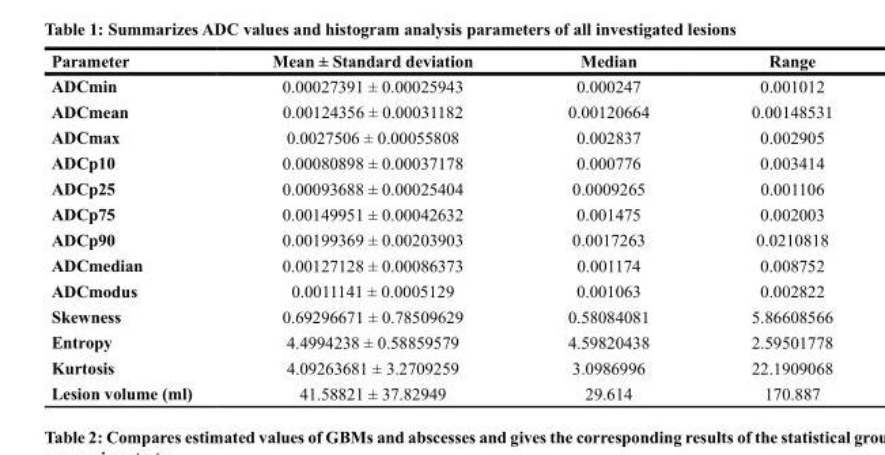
<table><thead><tr><td>Parameter</td><td>Mean ± Standard deviation</td><td>Median</td><td>Range</td></tr></thead><tbody><tr><td>ADCmin</td><td>0.00027391 ± 0.00025943</td><td>0.000247</td><td>0.001012</td></tr><tr><td>ADCmean</td><td>0.00124356 ± 0.00031182</td><td>0.00120664</td><td>0.00148531</td></tr><tr><td>ADCmax</td><td>0.0027506 ± 0.00055808</td><td>0.002837</td><td>0.002905</td></tr><tr><td>ADCp10</td><td>0.00080898 ± 0.00037178</td><td>0.000776</td><td>0.003414</td></tr><tr><td>ADCp25</td><td>0.00093688 ± 0.00025404</td><td>0.0009265</td><td>0.001106</td></tr><tr><td>ADCp75</td><td>0.00149951 ± 0.00042632</td><td>0.001475</td><td>0.002003</td></tr><tr><td>ADCp90</td><td>0.00199369 ± 0.00203903</td><td>0.0017263</td><td>0.0210818</td></tr><tr><td>ADCmedian</td><td>0.00127128 ± 0.00086373</td><td>0.001174</td><td>0.008752</td></tr><tr><td>ADCmodus</td><td>0.0011141 ± 0.0005129</td><td>0.001063</td><td>0.002822</td></tr><tr><td>Skewness</td><td>0.69296671 ± 0.78509629</td><td>0.58084081</td><td>5.86608566</td></tr><tr><td>Entropy</td><td>4.4994238 ± 0.58859579</td><td>4.59820438</td><td>2.59501778</td></tr><tr><td>Kurtosis</td><td>4.09263681 ± 3.2709259</td><td>3.0986996</td><td>22.1909068</td></tr><tr><td>Lesion volume (ml)</td><td>41.58821 ± 37.82949</td><td>29.614</td><td>170.887</td></tr></tbody></table>